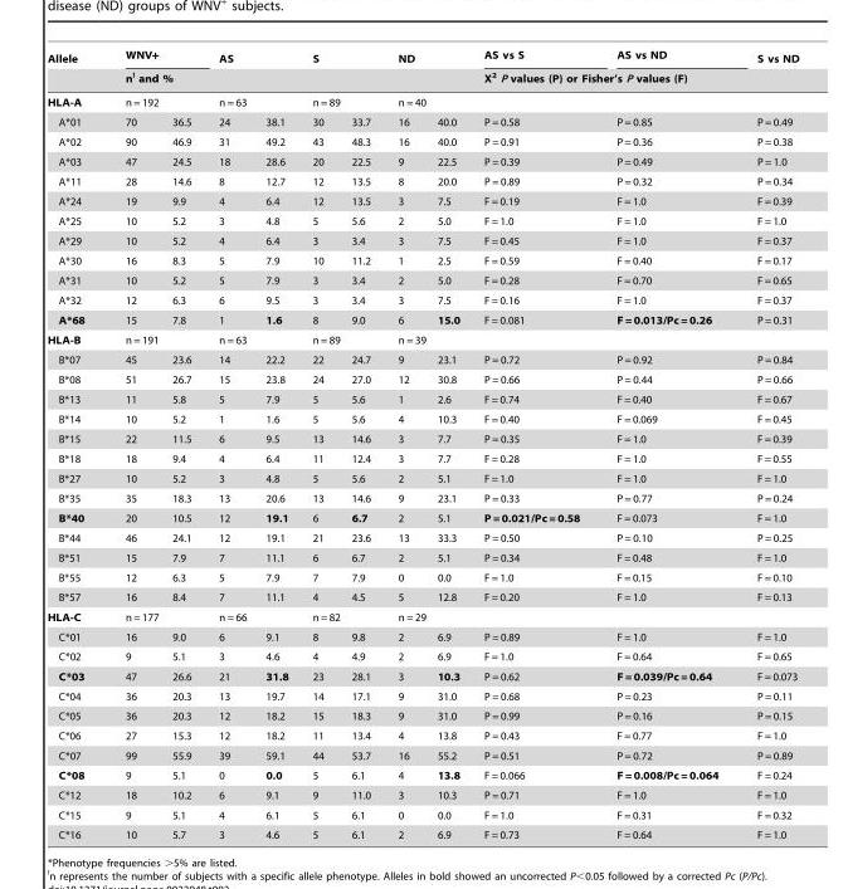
<table><thead><tr><td rowspan="4">Allele HLA-A A*01</td><td colspan="2">WNV+</td><td colspan="2">AS</td><td colspan="2">S</td><td colspan="2">ND</td><td>AS vs S</td><td>AS vs ND</td><td>S vs ND</td></tr><tr><td colspan="8">n! and %</td><td colspan="3">X<sup>2</sup> P values (P) or Fisher’s P values (F)</td></tr><tr><td colspan="2">n = 192</td><td colspan="2">n = 63</td><td colspan="2">n = 89</td><td colspan="2">n = 40</td><td rowspan="2">P = 0.58</td><td rowspan="2">P = 0.85</td><td rowspan="2">P = 0.49</td></tr><tr><td>70</td><td>36.5</td><td>24</td><td>38.1</td><td>30</td><td>33.7</td><td>16</td><td>40.0</td></tr></thead><tbody><tr><td>A*02</td><td>90</td><td>46.9</td><td>31</td><td>49.2</td><td>43</td><td>48.3</td><td>16</td><td>40.0</td><td>P = 0.91</td><td>P = 0.36</td><td>P = 0.38</td></tr><tr><td>A*03</td><td>47</td><td>24.5</td><td>18</td><td>28.6</td><td>20</td><td>22.5</td><td>9</td><td>22.5</td><td>P = 0.39</td><td>P = 0.49</td><td>P = 1.0</td></tr><tr><td>A*11</td><td>28</td><td>14.6</td><td>8</td><td>12.7</td><td>12</td><td>13.5</td><td>8</td><td>20.0</td><td>P = 0.89</td><td>P = 0.32</td><td>P = 0.34</td></tr><tr><td>A*24</td><td>19</td><td>9.9</td><td>4</td><td>6.4</td><td>12</td><td>13.5</td><td>3</td><td>7.5</td><td>F = 0.19</td><td>F = 1.0</td><td>F = 0.39</td></tr><tr><td>A*25</td><td>10</td><td>5.2</td><td>3</td><td>4.8</td><td>5</td><td>5.6</td><td>2</td><td>5.0</td><td>F = 1.0</td><td>F = 1.0</td><td>F = 1.0</td></tr><tr><td>A*29</td><td>10</td><td>5.2</td><td>4</td><td>6.4</td><td>3</td><td>3.4</td><td>3</td><td>7.5</td><td>F = 0.45</td><td>F = 1.0</td><td>F = 0.37</td></tr><tr><td>A*30</td><td>16</td><td>8.3</td><td>5</td><td>7.9</td><td>10</td><td>11.2</td><td>1</td><td>2.5</td><td>F = 0.59</td><td>F = 0.40</td><td>F = 0.17</td></tr><tr><td>A*31</td><td>10</td><td>5.2</td><td>5</td><td>7.9</td><td>3</td><td>3.4</td><td>2</td><td>5.0</td><td>F = 0.28</td><td>F = 0.70</td><td>F = 0.65</td></tr><tr><td>A*32</td><td>12</td><td>6.3</td><td>6</td><td>9.5</td><td>3</td><td>3.4</td><td>3</td><td>7.5</td><td>F = 0.16</td><td>F = 1.0</td><td>F = 0.37</td></tr><tr><td>A*68</td><td>15</td><td>7.8</td><td>1</td><td>1.6</td><td>8</td><td>9.0</td><td>6</td><td>15.0</td><td>F = 0.081</td><td>F = 0.013/Pc = 0.26</td><td>P = 0.31</td></tr><tr><td>HLA-B</td><td colspan="2">n = 191</td><td colspan="2">n = 63</td><td colspan="2">n = 89</td><td colspan="2">n = 39</td><td></td><td></td><td></td></tr><tr><td>B*07</td><td>45</td><td>23.6</td><td>14</td><td>22.2</td><td>22</td><td>24.7</td><td>9</td><td>23.1</td><td>P = 0.72</td><td>P = 0.92</td><td>P = 0.84</td></tr><tr><td>B*08</td><td>51</td><td>26.7</td><td>15</td><td>23.8</td><td>24</td><td>27.0</td><td>12</td><td>30.8</td><td>P = 0.66</td><td>P = 0.44</td><td>P = 0.66</td></tr><tr><td>B*13</td><td>11</td><td>5.8</td><td>5</td><td>7.9</td><td>5</td><td>5.6</td><td>1</td><td>2.6</td><td>F = 0.74</td><td>F = 0.40</td><td>F = 0.67</td></tr><tr><td>B*14</td><td>10</td><td>5.2</td><td>1</td><td>1.6</td><td>5</td><td>5.6</td><td>4</td><td>10.3</td><td>F = 0.40</td><td>F = 0.069</td><td>F = 0.45</td></tr><tr><td>B*15</td><td>22</td><td>11.5</td><td>6</td><td>9.5</td><td>13</td><td>14.6</td><td>3</td><td>7.7</td><td>P = 0.35</td><td>F = 1.0</td><td>F = 0.39</td></tr><tr><td>B*18</td><td>18</td><td>9.4</td><td>4</td><td>6.4</td><td>11</td><td>12.4</td><td>3</td><td>7.7</td><td>F = 0.28</td><td>F = 1.0</td><td>F = 0.55</td></tr><tr><td>B*27</td><td>10</td><td>5.2</td><td>3</td><td>4.8</td><td>5</td><td>5.6</td><td>2</td><td>5.1</td><td>F = 1.0</td><td>F = 1.0</td><td>F = 1.0</td></tr><tr><td>B*35</td><td>35</td><td>18.3</td><td>13</td><td>20.6</td><td>13</td><td>14.6</td><td>9</td><td>23.1</td><td>P = 0.33</td><td>P = 0.77</td><td>P = 0.24</td></tr><tr><td>B*40</td><td>20</td><td>10.5</td><td>12</td><td>19.1</td><td>6</td><td>6.7</td><td>2</td><td>5.1</td><td>P = 0.021/Pc = 0.58</td><td>F = 0.073</td><td>F = 1.0</td></tr><tr><td>B*44</td><td>46</td><td>24.1</td><td>12</td><td>19.1</td><td>21</td><td>23.6</td><td>13</td><td>33.3</td><td>P = 0.50</td><td>P = 0.10</td><td>P = 0.25</td></tr><tr><td>B*51</td><td>15</td><td>7.9</td><td>7</td><td>11.1</td><td>6</td><td>6.7</td><td>2</td><td>5.1</td><td>P = 0.34</td><td>F = 0.48</td><td>F = 1.0</td></tr><tr><td>B*55</td><td>12</td><td>6.3</td><td>5</td><td>7.9</td><td>7</td><td>7.9</td><td>0</td><td>0.0</td><td>F = 1.0</td><td>F = 0.15</td><td>F = 0.10</td></tr><tr><td>B*57</td><td>16</td><td>8.4</td><td>7</td><td>11.1</td><td>4</td><td>4.5</td><td>5</td><td>12.8</td><td>F = 0.20</td><td>F = 1.0</td><td>F = 0.13</td></tr><tr><td>HLA-C</td><td colspan="2">n = 177</td><td colspan="2">n = 66</td><td colspan="2">n = 82</td><td colspan="2">n = 29</td><td></td><td></td><td></td></tr><tr><td>C*01</td><td>16</td><td>9.0</td><td>6</td><td>9.1</td><td>8</td><td>9.8</td><td>2</td><td>6.9</td><td>P = 0.89</td><td>F = 1.0</td><td>F = 1.0</td></tr><tr><td>C*02</td><td>9</td><td>5.1</td><td>3</td><td>4.6</td><td>4</td><td>4.9</td><td>2</td><td>6.9</td><td>F = 1.0</td><td>F = 0.64</td><td>F = 0.65</td></tr><tr><td>C*03</td><td>47</td><td>26.6</td><td>21</td><td>31.8</td><td>23</td><td>28.1</td><td>3</td><td>10.3</td><td>P = 0.62</td><td>F = 0.039/Pc = 0.64</td><td>F = 0.073</td></tr><tr><td>C*04</td><td>36</td><td>20.3</td><td>13</td><td>19.7</td><td>14</td><td>17.1</td><td>9</td><td>31.0</td><td>P = 0.68</td><td>P = 0.23</td><td>P = 0.11</td></tr><tr><td>C*05</td><td>36</td><td>20.3</td><td>12</td><td>18.2</td><td>15</td><td>18.3</td><td>9</td><td>31.0</td><td>P = 0.99</td><td>P = 0.16</td><td>P = 0.15</td></tr><tr><td>C*06</td><td>27</td><td>15.3</td><td>12</td><td>18.2</td><td>11</td><td>13.4</td><td>4</td><td>13.8</td><td>P = 0.43</td><td>F = 0.77</td><td>F = 1.0</td></tr><tr><td>C*07</td><td>99</td><td>55.9</td><td>39</td><td>59.1</td><td>44</td><td>53.7</td><td>16</td><td>55.2</td><td>P = 0.51</td><td>P = 0.72</td><td>P = 0.89</td></tr><tr><td>C*08</td><td>9</td><td>5.1</td><td>0</td><td>0.0</td><td>5</td><td>6.1</td><td>4</td><td>13.8</td><td>F = 0.066</td><td>F = 0.008/Pc = 0.064</td><td>F = 0.24</td></tr><tr><td>C*12</td><td>18</td><td>10.2</td><td>6</td><td>9.1</td><td>9</td><td>11.0</td><td>3</td><td>10.3</td><td>P = 0.71</td><td>F = 1.0</td><td>F = 1.0</td></tr><tr><td>C*15</td><td>9</td><td>5.1</td><td>4</td><td>6.1</td><td>5</td><td>6.1</td><td>0</td><td>0.0</td><td>F = 1.0</td><td>F = 0.31</td><td>F = 0.32</td></tr><tr><td>C*16</td><td>10</td><td>5.7</td><td>3</td><td>4.6</td><td>5</td><td>6.1</td><td>2</td><td>6.9</td><td>F = 0.73</td><td>F = 0.64</td><td>F = 1.0</td></tr></tbody></table>